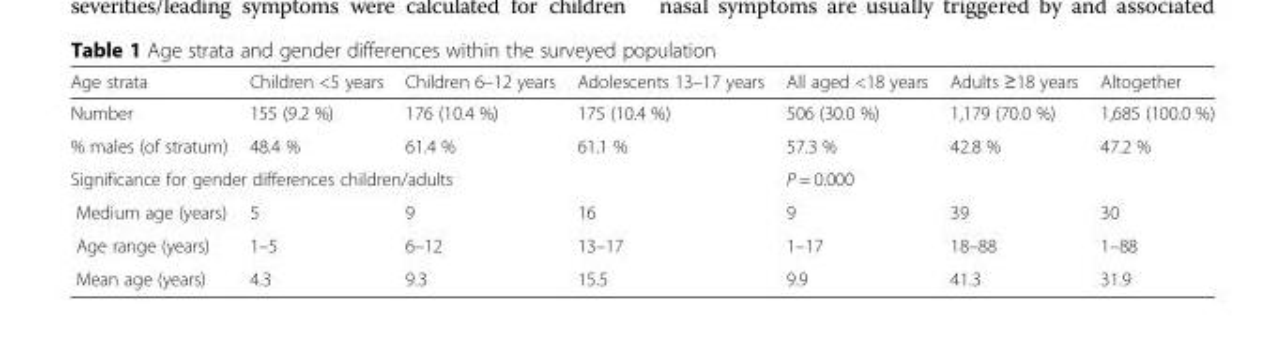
<table><thead><tr><td>Age strata</td><td>Children &lt;5 years</td><td>Children 6–12 years</td><td>Adolescents 13–17 years</td><td>All aged &lt;18 years</td><td>Adults ≥18 years</td><td>Altogether</td></tr></thead><tbody><tr><td>Number</td><td>155 (9.2 %)</td><td>176 (10.4 %)</td><td>175 (10.4 %)</td><td>506 (30.0 %)</td><td>1,179 (70.0 %)</td><td>1,685 (100.0 %)</td></tr><tr><td>% males (of stratum)</td><td>48.4 %</td><td>61.4 %</td><td>61.1 %</td><td>57.3 %</td><td>42.8 %</td><td>47.2 %</td></tr><tr><td colspan="4">Significance for gender differences children/adults</td><td colspan="2">P = 0.000</td><td></td></tr><tr><td>Medium age (years)</td><td>5</td><td>9</td><td>16</td><td>9</td><td>39</td><td>30</td></tr><tr><td>Age range (years)</td><td>1–5</td><td>6–12</td><td>13–17</td><td>1–17</td><td>18–88</td><td>1–88</td></tr><tr><td>Mean age (years)</td><td>4.3</td><td>9.3</td><td>15.5</td><td>9.9</td><td>41.3</td><td>31.9</td></tr></tbody></table>